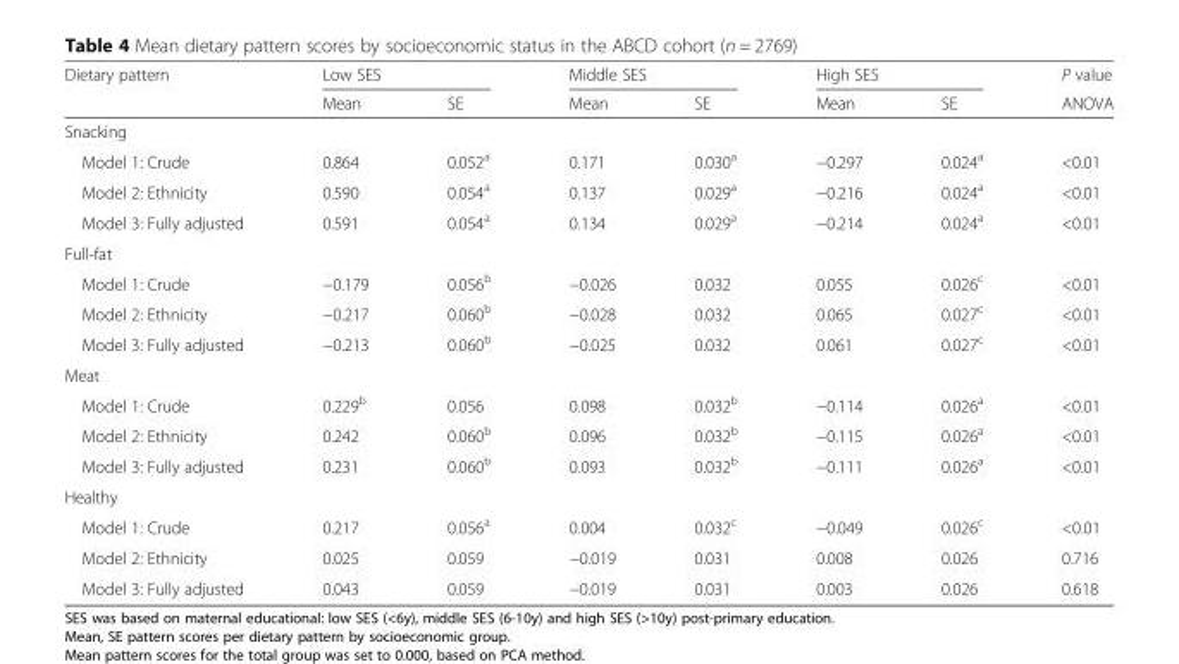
<table><thead><tr><td rowspan="2">Dietary pattern</td><td colspan="2">Low SES</td><td colspan="2">Middle SES</td><td colspan="2">High SES</td><td rowspan="2">P value ANOVA</td></tr><tr><td>Mean</td><td>SE</td><td>Mean</td><td>SE</td><td>Mean</td><td>SE</td></tr></thead><tbody><tr><td colspan="8">Snacking</td></tr><tr><td>Model 1: Crude</td><td>0.864</td><td>0.052<sup>a</sup></td><td>0.171</td><td>0.030<sup>a</sup></td><td>−0.297</td><td>0.024<sup>a</sup></td><td>&lt;0.01</td></tr><tr><td>Model 2: Ethnicity</td><td>0.590</td><td>0.054<sup>a</sup></td><td>0.137</td><td>0.029<sup>a</sup></td><td>−0.216</td><td>0.024<sup>a</sup></td><td>&lt;0.01</td></tr><tr><td>Model 3: Fully adjusted</td><td>0.591</td><td>0.054<sup>a</sup></td><td>0.134</td><td>0.029<sup>a</sup></td><td>−0.214</td><td>0.024<sup>a</sup></td><td>&lt;0.01</td></tr><tr><td colspan="8">Full-fat</td></tr><tr><td>Model 1: Crude</td><td>−0.179</td><td>0.056<sup>b</sup></td><td>−0.026</td><td>0.032</td><td>0.055</td><td>0.026<sup>c</sup></td><td>&lt;0.01</td></tr><tr><td>Model 2: Ethnicity</td><td>−0.217</td><td>0.060<sup>b</sup></td><td>−0.028</td><td>0.032</td><td>0.065</td><td>0.027<sup>c</sup></td><td>&lt;0.01</td></tr><tr><td>Model 3: Fully adjusted</td><td>−0.213</td><td>0.060<sup>b</sup></td><td>−0.025</td><td>0.032</td><td>0.061</td><td>0.027<sup>c</sup></td><td>&lt;0.01</td></tr><tr><td colspan="8">Meat</td></tr><tr><td>Model 1: Crude</td><td>0.229<sup>b</sup></td><td>0.056</td><td>0.098</td><td>0.032<sup>b</sup></td><td>−0.114</td><td>0.026<sup>a</sup></td><td>&lt;0.01</td></tr><tr><td>Model 2: Ethnicity</td><td>0.242</td><td>0.060<sup>b</sup></td><td>0.096</td><td>0.032<sup>b</sup></td><td>−0.115</td><td>0.026<sup>a</sup></td><td>&lt;0.01</td></tr><tr><td>Model 3: Fully adjusted</td><td>0.231</td><td>0.060<sup>b</sup></td><td>0.093</td><td>0.032<sup>b</sup></td><td>−0.111</td><td>0.026<sup>a</sup></td><td>&lt;0.01</td></tr><tr><td colspan="8">Healthy</td></tr><tr><td>Model 1: Crude</td><td>0.217</td><td>0.056<sup>a</sup></td><td>0.004</td><td>0.032<sup>c</sup></td><td>−0.049</td><td>0.026<sup>c</sup></td><td>&lt;0.01</td></tr><tr><td>Model 2: Ethnicity</td><td>0.025</td><td>0.059</td><td>−0.019</td><td>0.031</td><td>0.008</td><td>0.026</td><td>0.716</td></tr><tr><td>Model 3: Fully adjusted</td><td>0.043</td><td>0.059</td><td>−0.019</td><td>0.031</td><td>0.003</td><td>0.026</td><td>0.618</td></tr></tbody></table>